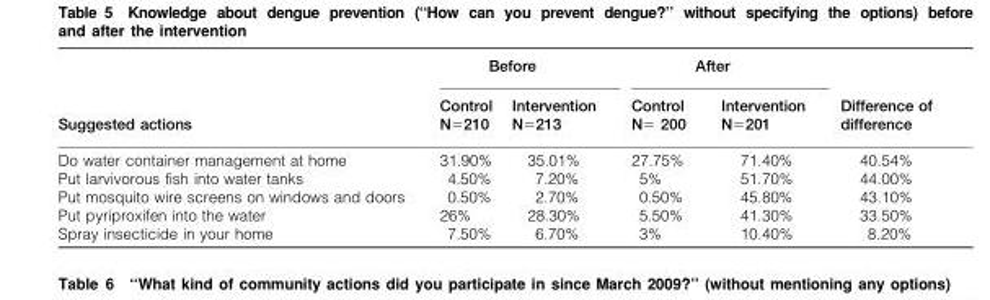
<table><thead><tr><td rowspan="2">Suggested actions</td><td colspan="2">Before</td><td colspan="2">After</td><td rowspan="2">Difference of difference</td></tr><tr><td>Control N=210</td><td>Intervention N=213</td><td>Control N= 200</td><td>Intervention N=201</td></tr></thead><tbody><tr><td>Do water container management at home</td><td>31.90%</td><td>35.01%</td><td>27.75%</td><td>71.40%</td><td>40.54%</td></tr><tr><td>Put larvivorous fish into water tanks</td><td>4.50%</td><td>7.20%</td><td>5%</td><td>51.70%</td><td>44.00%</td></tr><tr><td>Put mosquito wire screens on windows and doors</td><td>0.50%</td><td>2.70%</td><td>0.50%</td><td>45.80%</td><td>43.10%</td></tr><tr><td>Put pyriproxifen into the water</td><td>26%</td><td>28.30%</td><td>5.50%</td><td>41.30%</td><td>33.50%</td></tr><tr><td>Spray insecticide in your home</td><td>7.50%</td><td>6.70%</td><td>3%</td><td>10.40%</td><td>8.20%</td></tr></tbody></table>